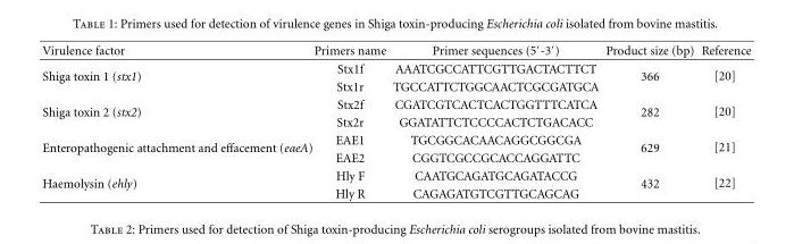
<table><thead><tr><td>Virulence factor</td><td>Primers name</td><td>Primer sequences (5′-3′)</td><td>Product size (bp)</td><td>Reference</td></tr></thead><tbody><tr><td rowspan="2">Shiga toxin 1 (stx1)</td><td>Stx1f</td><td>AAATCGCCATTCGTTGACTACTTCT</td><td rowspan="2">366</td><td rowspan="2">[20]</td></tr><tr><td>Stx1r</td><td>TGCCATTCTGGCAACTCGCGATGCA</td></tr><tr><td rowspan="2">Shiga toxin 2 (stx2)</td><td>Stx2f</td><td>CGATCGTCACTCACTGGTTTCATCA</td><td rowspan="2">282</td><td rowspan="2">[20]</td></tr><tr><td>Stx2r</td><td>GGATATTCTCCCCACTCTGACACC</td></tr><tr><td rowspan="2">Enteropathogenic attachment and effacement (eaeA)</td><td>EAE1</td><td>TGCGGCACAACAGGCGGCGA</td><td rowspan="2">629</td><td rowspan="2">[21]</td></tr><tr><td>EAE2</td><td>CGGTCGCCGCACCAGGATTC</td></tr><tr><td rowspan="2">Haemolysin (ehly)</td><td>Hly F</td><td>CAATGCAGATGCAGATACCG</td><td rowspan="2">432</td><td rowspan="2">[22]</td></tr><tr><td>Hly R</td><td>CAGAGATGTCGTTGCAGCAG</td></tr></tbody></table>